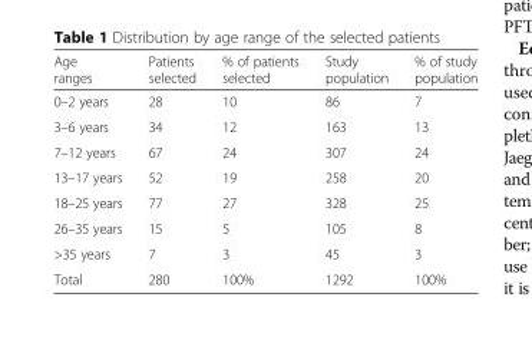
<table><thead><tr><td>Age ranges</td><td>Patients selected</td><td>% of patients selected</td><td>Study population</td><td>% of study population</td></tr></thead><tbody><tr><td>0–2 years</td><td>28</td><td>10</td><td>86</td><td>7</td></tr><tr><td>3–6 years</td><td>34</td><td>12</td><td>163</td><td>13</td></tr><tr><td>7–12 years</td><td>67</td><td>24</td><td>307</td><td>24</td></tr><tr><td>13–17 years</td><td>52</td><td>19</td><td>258</td><td>20</td></tr><tr><td>18–25 years</td><td>77</td><td>27</td><td>328</td><td>25</td></tr><tr><td>26–35 years</td><td>15</td><td>5</td><td>105</td><td>8</td></tr><tr><td>&gt;35 years</td><td>7</td><td>3</td><td>45</td><td>3</td></tr><tr><td>Total</td><td>280</td><td>100%</td><td>1292</td><td>100%</td></tr></tbody></table>